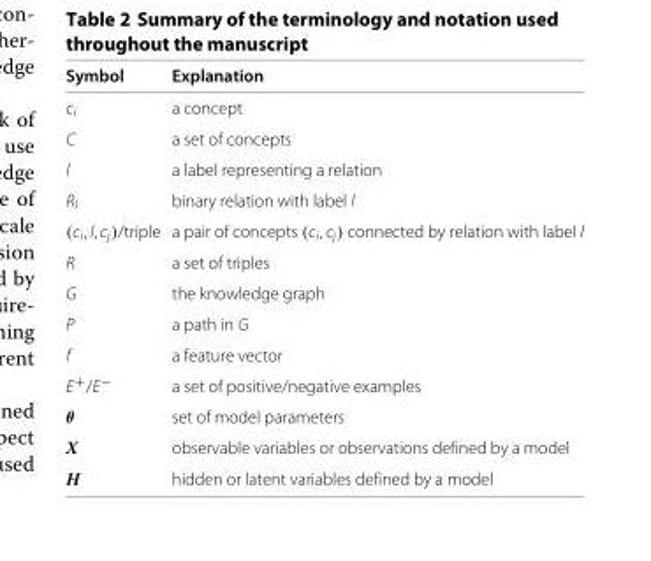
<table><thead><tr><td>Symbol</td><td>Explanation</td></tr></thead><tbody><tr><td>c<sub>i</sub></td><td>a concept</td></tr><tr><td>C</td><td>a set of concepts</td></tr><tr><td>l</td><td>a label representing a relation</td></tr><tr><td>R<sub>l</sub></td><td>binary relation with label l</td></tr><tr><td>(c<sub>i</sub>, l, c<sub>j</sub>)/triple</td><td>a pair of concepts (c<sub>i</sub>, c<sub>j</sub>) connected by relation with label l</td></tr><tr><td>R</td><td>a set of triples</td></tr><tr><td>G</td><td>the knowledge graph</td></tr><tr><td>P</td><td>a path in G</td></tr><tr><td>f</td><td>a feature vector</td></tr><tr><td>E<sup>+</sup>/E<sup>−</sup></td><td>a set of positive/negative examples</td></tr><tr><td>θ</td><td>set of model parameters</td></tr><tr><td>X</td><td>observable variables or observations defined by a model</td></tr><tr><td>H</td><td>hidden or latent variables defined by a model</td></tr></tbody></table>